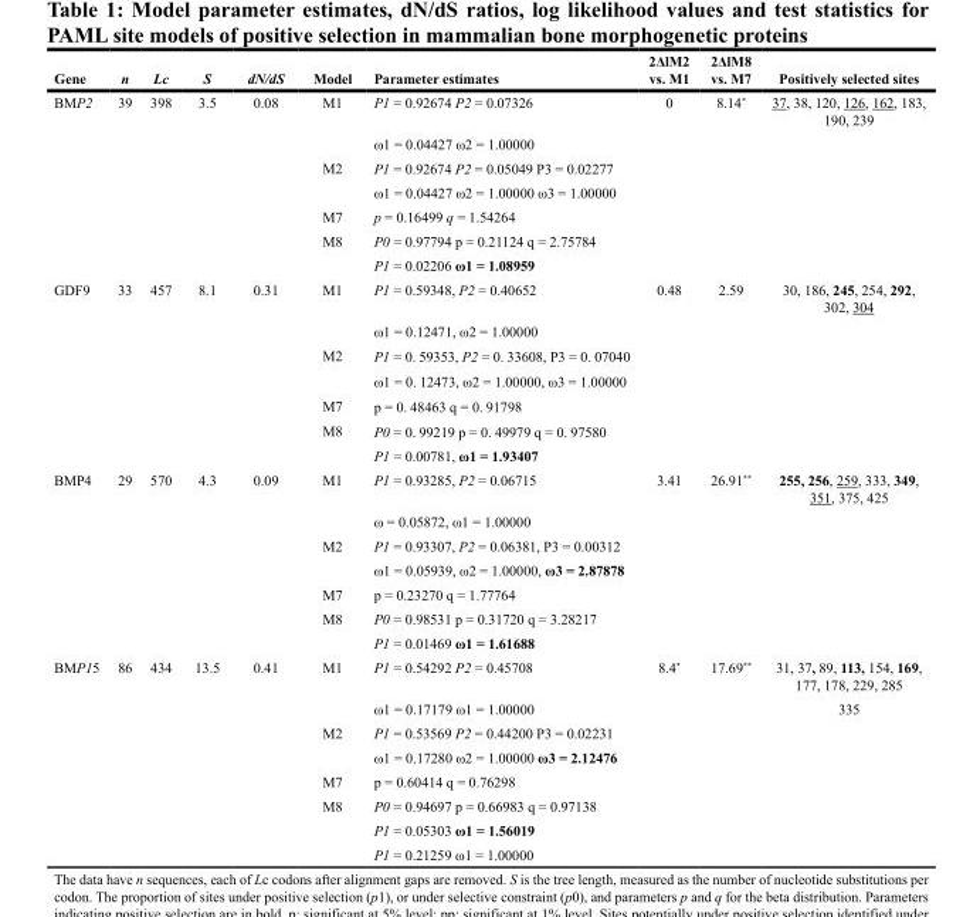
<table><thead><tr><td>Gene</td><td>n</td><td>Lc</td><td>S</td><td>dN/dS</td><td>Model</td><td>Parameter estimates</td><td>2ΔlM2 vs. M1</td><td>2ΔlM8 vs. M7</td><td>Positively selected sites</td></tr></thead><tbody><tr><td rowspan="7">BMP2</td><td>39</td><td>398</td><td>3.5</td><td>0.08</td><td>M1</td><td>P1 = 0.92674 P2 = 0.07326</td><td>0</td><td>8.14*</td><td>37, 38, 120, 126, 162, 183, 190, 239</td></tr><tr><td></td><td></td><td></td><td></td><td></td><td>ω1 = 0.04427 ω2 = 1.00000</td><td></td><td></td><td></td></tr><tr><td></td><td></td><td></td><td></td><td>M2</td><td>P1 = 0.92674 P2 = 0.05049 P3 = 0.02277</td><td></td><td></td><td></td></tr><tr><td></td><td></td><td></td><td></td><td></td><td>ω1 = 0.04427 ω2 = 1.00000 ω3 = 1.00000</td><td></td><td></td><td></td></tr><tr><td></td><td></td><td></td><td></td><td>M7</td><td>p = 0.16499 q = 1.54264</td><td></td><td></td><td></td></tr><tr><td></td><td></td><td></td><td></td><td>M8</td><td>P0 = 0.97794 p = 0.21124 q = 2.75784</td><td></td><td></td><td></td></tr><tr><td></td><td></td><td></td><td></td><td></td><td>P1 = 0.02206 ω1 = 1.08959</td><td></td><td></td><td></td></tr><tr><td rowspan="7">GDF9</td><td>33</td><td>457</td><td>8.1</td><td>0.31</td><td>M1</td><td>P1 = 0.59348, P2 = 0.40652</td><td>0.48</td><td>2.59</td><td>30, 186, 245, 254, 292, 302, 304</td></tr><tr><td></td><td></td><td></td><td></td><td></td><td>ω1 = 0.12471, ω2 = 1.00000</td><td></td><td></td><td></td></tr><tr><td></td><td></td><td></td><td></td><td>M2</td><td>P1 = 0. 59353, P2 = 0. 33608, P3 = 0. 07040</td><td></td><td></td><td></td></tr><tr><td></td><td></td><td></td><td></td><td></td><td>ω1 = 0. 12473, ω2 = 1.00000, ω3 = 1.00000</td><td></td><td></td><td></td></tr><tr><td></td><td></td><td></td><td></td><td>M7</td><td>p = 0. 48463 q = 0. 91798</td><td></td><td></td><td></td></tr><tr><td></td><td></td><td></td><td></td><td>M8</td><td>P0 = 0. 99219 p = 0. 49979 q = 0. 97580</td><td></td><td></td><td></td></tr><tr><td></td><td></td><td></td><td></td><td></td><td>P1 = 0.00781, ω1 = 1.93407</td><td></td><td></td><td></td></tr><tr><td rowspan="7">BMP4</td><td>29</td><td>570</td><td>4.3</td><td>0.09</td><td>M1</td><td>P1 = 0.93285, P2 = 0.06715</td><td>3.41</td><td>26.91**</td><td>255, 256, 259, 333, 349, 351, 375, 425</td></tr><tr><td></td><td></td><td></td><td></td><td></td><td>ω = 0.05872, ω1 = 1.00000</td><td></td><td></td><td></td></tr><tr><td></td><td></td><td></td><td></td><td>M2</td><td>P1 = 0.93307, P2 = 0.06381, P3 = 0.00312</td><td></td><td></td><td></td></tr><tr><td></td><td></td><td></td><td></td><td></td><td>ω1 = 0.05939, ω2 = 1.00000, ω3 = 2.87878</td><td></td><td></td><td></td></tr><tr><td></td><td></td><td></td><td></td><td>M7</td><td>p = 0.23270 q = 1.77764</td><td></td><td></td><td></td></tr><tr><td></td><td></td><td></td><td></td><td>M8</td><td>P0 = 0.98531 p = 0.31720 q = 3.28217</td><td></td><td></td><td></td></tr><tr><td></td><td></td><td></td><td></td><td></td><td>P1 = 0.01469 ω1 = 1.61688</td><td></td><td></td><td></td></tr><tr><td rowspan="8">BMP15</td><td>86</td><td>434</td><td>13.5</td><td>0.41</td><td>M1</td><td>P1 = 0.54292 P2 = 0.45708</td><td>8.4*</td><td>17.69**</td><td>31, 37, 89, 113, 154, 169, 177, 178, 229, 285</td></tr><tr><td></td><td></td><td></td><td></td><td></td><td>ω1 = 0.17179 ω1 = 1.00000</td><td></td><td></td><td>335</td></tr><tr><td></td><td></td><td></td><td></td><td>M2</td><td>P1 = 0.53569 P2 = 0.44200 P3 = 0.02231</td><td></td><td></td><td></td></tr><tr><td></td><td></td><td></td><td></td><td></td><td>ω1 = 0.17280 ω2 = 1.00000 ω3 = 2.12476</td><td></td><td></td><td></td></tr><tr><td></td><td></td><td></td><td></td><td>M7</td><td>p = 0.60414 q = 0.76298</td><td></td><td></td><td></td></tr><tr><td></td><td></td><td></td><td></td><td>M8</td><td>P0 = 0.94697 p = 0.66983 q = 0.97138</td><td></td><td></td><td></td></tr><tr><td></td><td></td><td></td><td></td><td></td><td>P1 = 0.05303 ω1 = 1.56019</td><td></td><td></td><td></td></tr><tr><td></td><td></td><td></td><td></td><td></td><td>P1 = 0.21259 ω1 = 1.00000</td><td></td><td></td><td></td></tr></tbody></table>